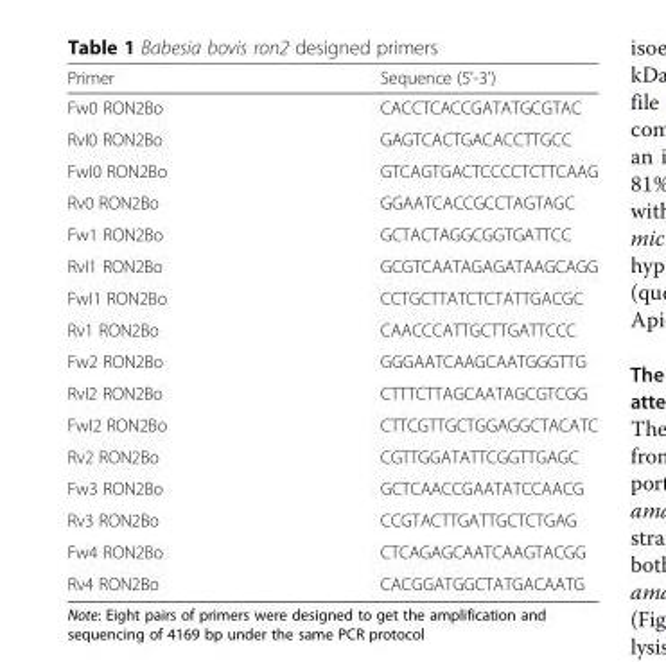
<table><thead><tr><td>Primer</td><td>Sequence (5&#x27;-3&#x27;)</td></tr></thead><tbody><tr><td>Fw0 RON2Bo</td><td>CACCTCACCGATATGCGTAC</td></tr><tr><td>RvI0 RON2Bo</td><td>GAGTCACTGACACCTTGCC</td></tr><tr><td>FwI0 RON2Bo</td><td>GTCAGTGACTCCCCTCTTCAAG</td></tr><tr><td>Rv0 RON2Bo</td><td>GGAATCACCGCCTAGTAGC</td></tr><tr><td>Fw1 RON2Bo</td><td>GCTACTAGGCGGTGATTCC</td></tr><tr><td>RvI1 RON2Bo</td><td>GCGTCAATAGAGATAAGCAGG</td></tr><tr><td>FwI1 RON2Bo</td><td>CCTGCTTATCTCTATTGACGC</td></tr><tr><td>Rv1 RON2Bo</td><td>CAACCCATTGCTTGATTCCC</td></tr><tr><td>Fw2 RON2Bo</td><td>GGGAATCAAGCAATGGGTTG</td></tr><tr><td>RvI2 RON2Bo</td><td>CTTTCTTAGCAATAGCGTCGG</td></tr><tr><td>FwI2 RON2Bo</td><td>CTTCGTTGCTGGAGGCTACATC</td></tr><tr><td>Rv2 RON2Bo</td><td>CGTTGGATATTCGGTTGAGC</td></tr><tr><td>Fw3 RON2Bo</td><td>GCTCAACCGAATATCCAACG</td></tr><tr><td>Rv3 RON2Bo</td><td>CCGTACTTGATTGCTCTGAG</td></tr><tr><td>Fw4 RON2Bo</td><td>CTCAGAGCAATCAAGTACGG</td></tr><tr><td>Rv4 RON2Bo</td><td>CACGGATGGCTATGACAATG</td></tr></tbody></table>